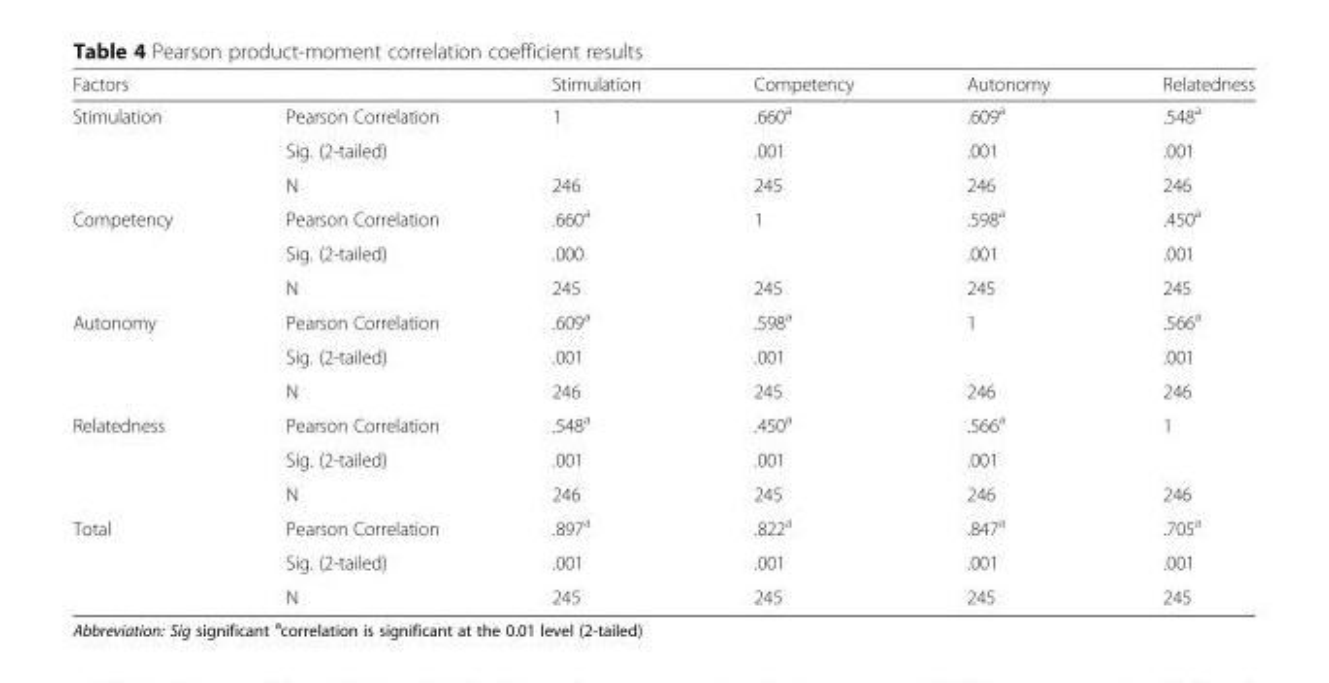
<table><thead><tr><td>Factors</td><td></td><td>Stimulation</td><td>Competency</td><td>Autonomy</td><td>Relatedness</td></tr></thead><tbody><tr><td rowspan="3">Stimulation</td><td>Pearson Correlation</td><td>1</td><td>.660<sup>a</sup></td><td>.609<sup>a</sup></td><td>.548<sup>a</sup></td></tr><tr><td>Sig. (2-tailed)</td><td></td><td>.001</td><td>.001</td><td>.001</td></tr><tr><td>N</td><td>246</td><td>245</td><td>246</td><td>246</td></tr><tr><td rowspan="3">Competency</td><td>Pearson Correlation</td><td>.660<sup>a</sup></td><td>1</td><td>.598<sup>a</sup></td><td>.450<sup>a</sup></td></tr><tr><td>Sig. (2-tailed)</td><td>.000</td><td></td><td>.001</td><td>.001</td></tr><tr><td>N</td><td>245</td><td>245</td><td>245</td><td>245</td></tr><tr><td rowspan="3">Autonomy</td><td>Pearson Correlation</td><td>.609<sup>a</sup></td><td>.598<sup>a</sup></td><td>1</td><td>.566<sup>a</sup></td></tr><tr><td>Sig. (2-tailed)</td><td>.001</td><td>.001</td><td></td><td>.001</td></tr><tr><td>N</td><td>246</td><td>245</td><td>246</td><td>246</td></tr><tr><td rowspan="3">Relatedness</td><td>Pearson Correlation</td><td>.548<sup>a</sup></td><td>.450<sup>a</sup></td><td>.566<sup>a</sup></td><td>1</td></tr><tr><td>Sig. (2-tailed)</td><td>.001</td><td>.001</td><td>.001</td><td></td></tr><tr><td>N</td><td>246</td><td>245</td><td>246</td><td>246</td></tr><tr><td rowspan="3">Total</td><td>Pearson Correlation</td><td>.897<sup>a</sup></td><td>.822<sup>a</sup></td><td>.847<sup>a</sup></td><td>.705<sup>a</sup></td></tr><tr><td>Sig. (2-tailed)</td><td>.001</td><td>.001</td><td>.001</td><td>.001</td></tr><tr><td>N</td><td>245</td><td>245</td><td>245</td><td>245</td></tr></tbody></table>